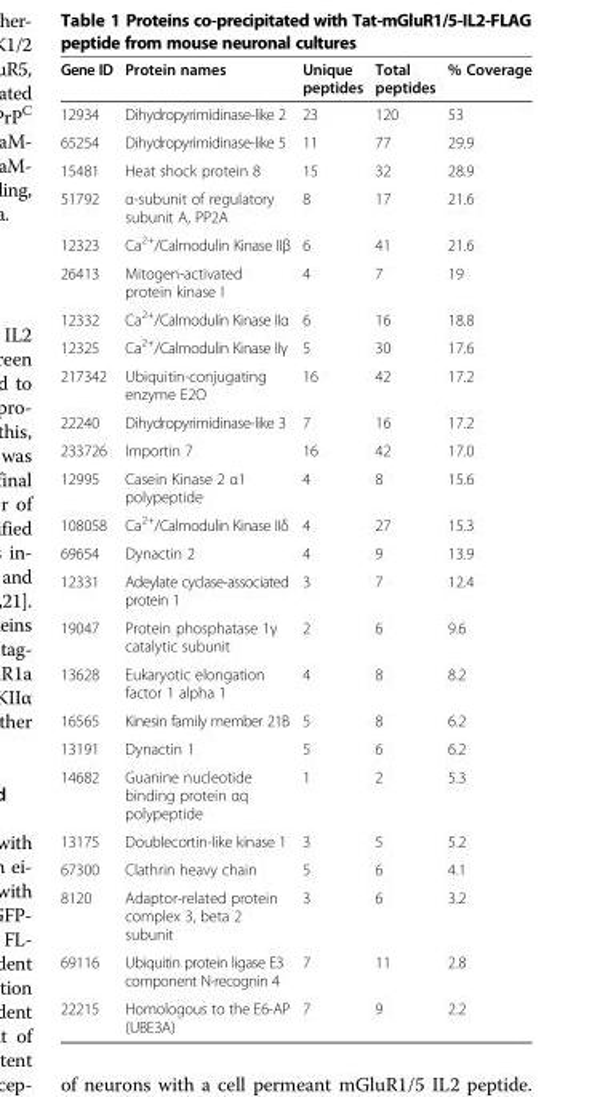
<table><thead><tr><td>Gene ID</td><td>Protein names</td><td>Unique peptides</td><td>Total peptides</td><td>% Coverage</td></tr></thead><tbody><tr><td>12934</td><td>Dihydropyrimidinase-like 2</td><td>23</td><td>120</td><td>53</td></tr><tr><td>65254</td><td>Dihydropyrimidinase-like 5</td><td>11</td><td>77</td><td>29.9</td></tr><tr><td>15481</td><td>Heat shock protein 8</td><td>15</td><td>32</td><td>28.9</td></tr><tr><td>51792</td><td>α-subunit of regulatory subunit A, PP2A</td><td>8</td><td>17</td><td>21.6</td></tr><tr><td>12323</td><td>Ca<sup>2+</sup>/Calmodulin Kinase IIβ</td><td>6</td><td>41</td><td>21.6</td></tr><tr><td>26413</td><td>Mitogen-activated protein kinase I</td><td>4</td><td>7</td><td>19</td></tr><tr><td>12332</td><td>Ca<sup>2+</sup>/Calmodulin Kinase IIα</td><td>6</td><td>16</td><td>18.8</td></tr><tr><td>12325</td><td>Ca<sup>2+</sup>/Calmodulin Kinase IIγ</td><td>5</td><td>30</td><td>17.6</td></tr><tr><td>217342</td><td>Ubiquitin-conjugating enzyme E2O</td><td>16</td><td>42</td><td>17.2</td></tr><tr><td>22240</td><td>Dihydropyrimidinase-like 3</td><td>7</td><td>16</td><td>17.2</td></tr><tr><td>233726</td><td>Importin 7</td><td>16</td><td>42</td><td>17.0</td></tr><tr><td>12995</td><td>Casein Kinase 2 α1 polypeptide</td><td>4</td><td>8</td><td>15.6</td></tr><tr><td>108058</td><td>Ca<sup>2+</sup>/Calmodulin Kinase IIδ</td><td>4</td><td>27</td><td>15.3</td></tr><tr><td>69654</td><td>Dynactin 2</td><td>4</td><td>9</td><td>13.9</td></tr><tr><td>12331</td><td>Adeylate cyclase-associated protein 1</td><td>3</td><td>7</td><td>12.4</td></tr><tr><td>19047</td><td>Protein phosphatase 1γ catalytic subunit</td><td>2</td><td>6</td><td>9.6</td></tr><tr><td>13628</td><td>Eukaryotic elongation factor 1 alpha 1</td><td>4</td><td>8</td><td>8.2</td></tr><tr><td>16565</td><td>Kinesin family member 21B</td><td>5</td><td>8</td><td>6.2</td></tr><tr><td>13191</td><td>Dynactin 1</td><td>5</td><td>6</td><td>6.2</td></tr><tr><td>14682</td><td>Guanine nucleotide binding protein αq polypeptide</td><td>1</td><td>2</td><td>5.3</td></tr><tr><td>13175</td><td>Doublecortin-like kinase 1</td><td>3</td><td>5</td><td>5.2</td></tr><tr><td>67300</td><td>Clathrin heavy chain</td><td>5</td><td>6</td><td>4.1</td></tr><tr><td>8120</td><td>Adaptor-related protein complex 3, beta 2 subunit</td><td>3</td><td>6</td><td>3.2</td></tr><tr><td>69116</td><td>Ubiquitin protein ligase E3 component N-recognin 4</td><td>7</td><td>11</td><td>2.8</td></tr><tr><td>22215</td><td>Homologous to the E6-AP (UBE3A)</td><td>7</td><td>9</td><td>2.2</td></tr></tbody></table>